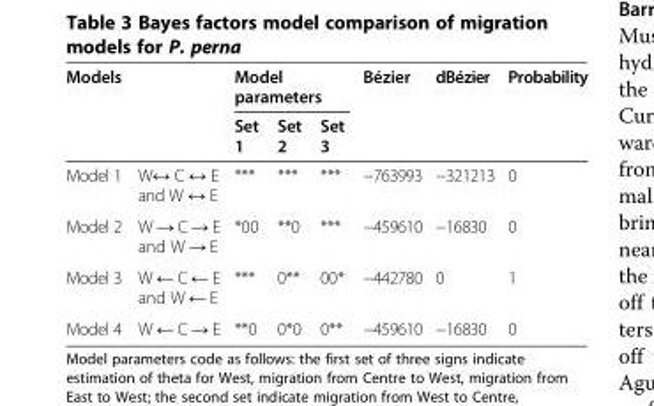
<table><thead><tr><td rowspan="2" colspan="2">Models</td><td colspan="3">Model parameters</td><td rowspan="3">Bézier −763993</td><td rowspan="3">dBézier −321213</td><td rowspan="3">Probability 0</td></tr><tr><td rowspan="2">Set 1 ***</td><td rowspan="2">Set 2 ***</td><td rowspan="2">Set 3 ***</td></tr><tr><td>Model 1</td><td>W↔ C ↔ E and W ↔ E</td></tr></thead><tbody><tr><td>Model 2</td><td>W → C → E and W → E</td><td>*00</td><td>**0</td><td>***</td><td>−459610</td><td>−16830</td><td>0</td></tr><tr><td>Model 3</td><td>W ← C ← E and W ← E</td><td>***</td><td>0**</td><td>00*</td><td>−442780</td><td>0</td><td>1</td></tr><tr><td>Model 4</td><td>W ← C → E</td><td>**0</td><td>0*0</td><td>0**</td><td>−459610</td><td>−16830</td><td>0</td></tr></tbody></table>